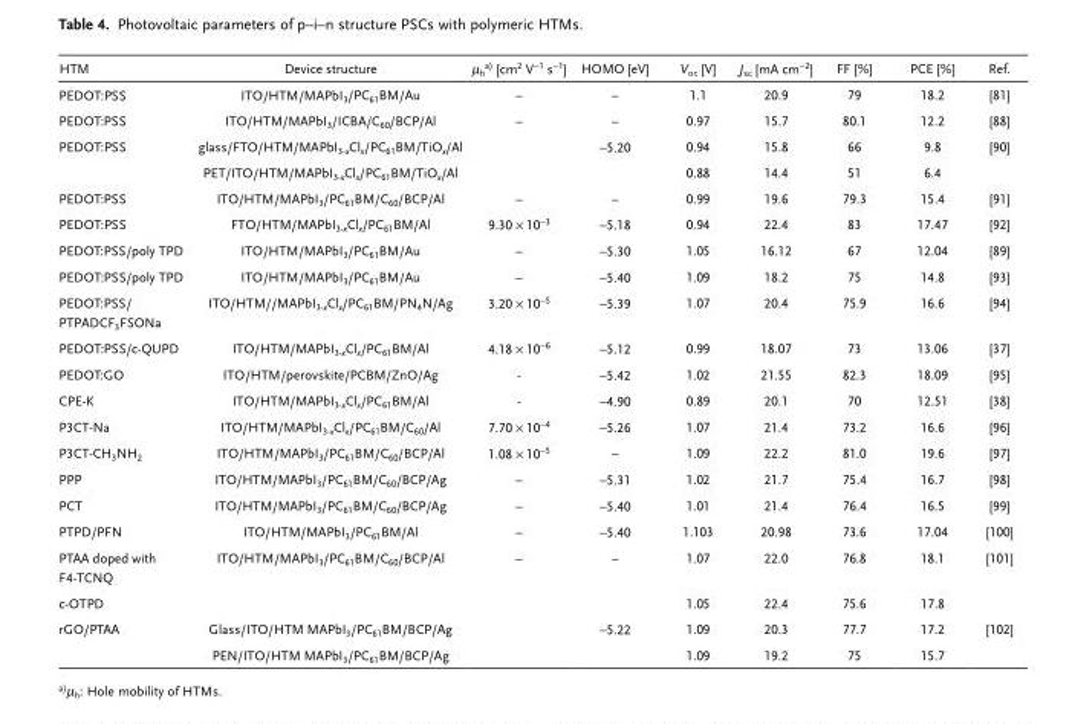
<table><thead><tr><td>HTM</td><td>Device structure</td><td>µ<sub>h</sub>a) [cm<sup>2</sup> V<sup>−1</sup> s<sup>−1</sup>]</td><td>HOMO [eV]</td><td>V<sub>oc</sub> [V]</td><td>J<sub>sc</sub> [mA cm<sup>−2</sup>]</td><td>FF [%]</td><td>PCE [%]</td><td>Ref.</td></tr></thead><tbody><tr><td>PEDOT:PSS</td><td>ITO/HTM/MAPbI<sub>3</sub>/PC<sub>61</sub>BM/Au</td><td>–</td><td>–</td><td>1.1</td><td>20.9</td><td>79</td><td>18.2</td><td>[81]</td></tr><tr><td>PEDOT:PSS</td><td>ITO/HTM/MAPbI<sub>3</sub>/ICBA/C<sub>60</sub>/BCP/Al</td><td>–</td><td>–</td><td>0.97</td><td>15.7</td><td>80.1</td><td>12.2</td><td>[88]</td></tr><tr><td rowspan="2">PEDOT:PSS</td><td>glass/FTO/HTM/MAPbI<sub>3-x</sub>Cl<sub>x</sub>/PC<sub>61</sub>BM/TiO<sub>x</sub>/Al</td><td></td><td>−5.20</td><td>0.94</td><td>15.8</td><td>66</td><td>9.8</td><td>[90]</td></tr><tr><td>PET/ITO/HTM/MAPbI<sub>3-x</sub>Cl<sub>x</sub>/PC<sub>61</sub>BM/TiO<sub>x</sub>/Al</td><td></td><td></td><td>0.88</td><td>14.4</td><td>51</td><td>6.4</td><td></td></tr><tr><td>PEDOT:PSS</td><td>ITO/HTM/MAPbI<sub>3</sub>/PC<sub>61</sub>BM/C<sub>60</sub>/BCP/Al</td><td>–</td><td>–</td><td>0.99</td><td>19.6</td><td>79.3</td><td>15.4</td><td>[91]</td></tr><tr><td>PEDOT:PSS</td><td>FTO/HTM/MAPbI<sub>3-x</sub>Cl<sub>x</sub>/PC<sub>61</sub>BM/Al</td><td>9.30 × 10<sup>−3</sup></td><td>−5.18</td><td>0.94</td><td>22.4</td><td>83</td><td>17.47</td><td>[92]</td></tr><tr><td>PEDOT:PSS/poly TPD</td><td>ITO/HTM/MAPbI<sub>3</sub>/PC<sub>61</sub>BM/Au</td><td>–</td><td>−5.30</td><td>1.05</td><td>16.12</td><td>67</td><td>12.04</td><td>[89]</td></tr><tr><td>PEDOT:PSS/poly TPD</td><td>ITO/HTM/MAPbI<sub>3</sub>/PC<sub>61</sub>BM/Au</td><td>–</td><td>−5.40</td><td>1.09</td><td>18.2</td><td>75</td><td>14.8</td><td>[93]</td></tr><tr><td>PEDOT:PSS/ PTPADCF<sub>3</sub>FSONa</td><td>ITO/HTM//MAPbI<sub>3-x</sub>Cl<sub>x</sub>/PC<sub>61</sub>BM/PN<sub>4</sub>N/Ag</td><td>3.20 × 10<sup>−5</sup></td><td>−5.39</td><td>1.07</td><td>20.4</td><td>75.9</td><td>16.6</td><td>[94]</td></tr><tr><td>PEDOT:PSS/c-QUPD</td><td>ITO/HTM/MAPbI<sub>3-x</sub>Cl<sub>x</sub>/PC<sub>61</sub>BM/Al</td><td>4.18 × 10<sup>−6</sup></td><td>−5.12</td><td>0.99</td><td>18.07</td><td>73</td><td>13.06</td><td>[37]</td></tr><tr><td>PEDOT:GO</td><td>ITO/HTM/perovskite/PCBM/ZnO/Ag</td><td>-</td><td>−5.42</td><td>1.02</td><td>21.55</td><td>82.3</td><td>18.09</td><td>[95]</td></tr><tr><td>CPE-K</td><td>ITO/HTM/MAPbI<sub>3-x</sub>Cl<sub>x</sub>/PC<sub>61</sub>BM/Al</td><td>-</td><td>−4.90</td><td>0.89</td><td>20.1</td><td>70</td><td>12.51</td><td>[38]</td></tr><tr><td>P3CT-Na</td><td>ITO/HTM/MAPbI<sub>3-x</sub>Cl<sub>x</sub>/PC<sub>61</sub>BM/C<sub>60</sub>/Al</td><td>7.70 × 10<sup>−4</sup></td><td>−5.26</td><td>1.07</td><td>21.4</td><td>73.2</td><td>16.6</td><td>[96]</td></tr><tr><td>P3CT-CH<sub>3</sub>NH<sub>2</sub></td><td>ITO/HTM/MAPbI<sub>3</sub>/PC<sub>61</sub>BM/C<sub>60</sub>/BCP/Al</td><td>1.08 × 10<sup>−5</sup></td><td>–</td><td>1.09</td><td>22.2</td><td>81.0</td><td>19.6</td><td>[97]</td></tr><tr><td>PPP</td><td>ITO/HTM/MAPbI<sub>3</sub>/PC<sub>61</sub>BM/C<sub>60</sub>/BCP/Ag</td><td>–</td><td>−5.31</td><td>1.02</td><td>21.7</td><td>75.4</td><td>16.7</td><td>[98]</td></tr><tr><td>PCT</td><td>ITO/HTM/MAPbI<sub>3</sub>/PC<sub>61</sub>BM/C<sub>60</sub>/BCP/Ag</td><td>–</td><td>−5.40</td><td>1.01</td><td>21.4</td><td>76.4</td><td>16.5</td><td>[99]</td></tr><tr><td>PTPD/PFN</td><td>ITO/HTM/MAPbI<sub>3</sub>/PC<sub>61</sub>BM/Al</td><td>–</td><td>−5.40</td><td>1.103</td><td>20.98</td><td>73.6</td><td>17.04</td><td>[100]</td></tr><tr><td>PTAA doped with F4-TCNQ</td><td>ITO/HTM/MAPbI<sub>3</sub>/PC<sub>61</sub>BM/C<sub>60</sub>/BCP/Al</td><td>–</td><td>–</td><td>1.07</td><td>22.0</td><td>76.8</td><td>18.1</td><td>[101]</td></tr><tr><td>c-OTPD</td><td></td><td></td><td></td><td>1.05</td><td>22.4</td><td>75.6</td><td>17.8</td><td></td></tr><tr><td rowspan="2">rGO/PTAA</td><td>Glass/ITO/HTM MAPbI<sub>3</sub>/PC<sub>61</sub>BM/BCP/Ag</td><td></td><td>−5.22</td><td>1.09</td><td>20.3</td><td>77.7</td><td>17.2</td><td>[102]</td></tr><tr><td>PEN/ITO/HTM MAPbI<sub>3</sub>/PC<sub>61</sub>BM/BCP/Ag</td><td></td><td></td><td>1.09</td><td>19.2</td><td>75</td><td>15.7</td><td></td></tr></tbody></table>